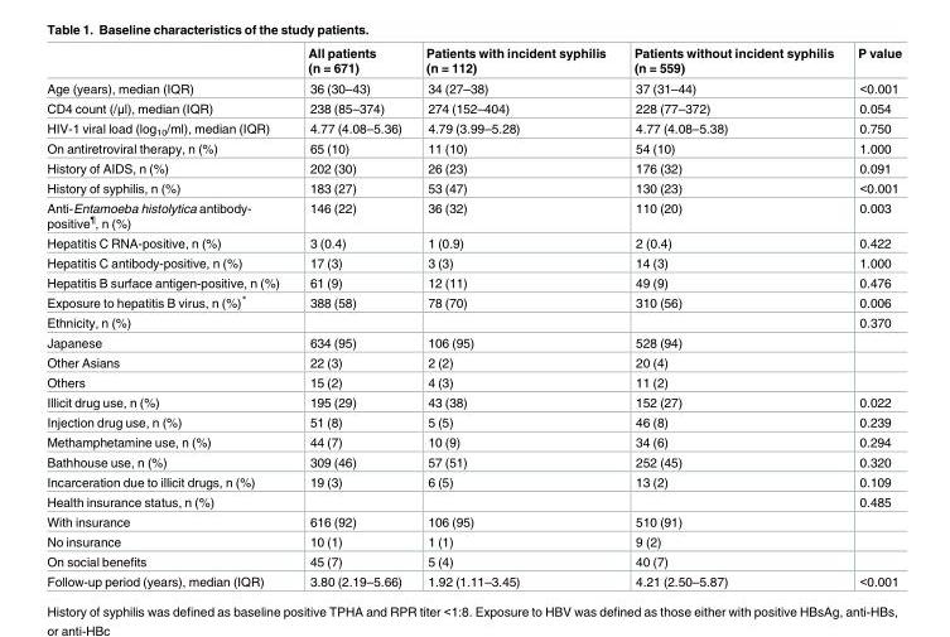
<table><thead><tr><td></td><td>All patients (n = 671)</td><td>Patients with incident syphilis (n = 112)</td><td>Patients without incident syphilis (n = 559)</td><td>P value</td></tr></thead><tbody><tr><td>Age (years), median (IQR)</td><td>36 (30–43)</td><td>34 (27–38)</td><td>37 (31–44)</td><td>&lt;0.001</td></tr><tr><td>CD4 count (/μl), median (IQR)</td><td>238 (85–374)</td><td>274 (152–404)</td><td>228 (77–372)</td><td>0.054</td></tr><tr><td>HIV-1 viral load (log<sub>10</sub>/ml), median (IQR)</td><td>4.77 (4.08–5.36)</td><td>4.79 (3.99–5.28)</td><td>4.77 (4.08–5.38)</td><td>0.750</td></tr><tr><td>On antiretroviral therapy, n (%)</td><td>65 (10)</td><td>11 (10)</td><td>54 (10)</td><td>1.000</td></tr><tr><td>History of AIDS, n (%)</td><td>202 (30)</td><td>26 (23)</td><td>176 (32)</td><td>0.091</td></tr><tr><td>History of syphilis, n (%)</td><td>183 (27)</td><td>53 (47)</td><td>130 (23)</td><td>&lt;0.001</td></tr><tr><td>Anti-Entamoeba histolytica antibody- positive<sup>¶</sup>, n (%)</td><td>146 (22)</td><td>36 (32)</td><td>110 (20)</td><td>0.003</td></tr><tr><td>Hepatitis C RNA-positive, n (%)</td><td>3 (0.4)</td><td>1 (0.9)</td><td>2 (0.4)</td><td>0.422</td></tr><tr><td>Hepatitis C antibody-positive, n (%)</td><td>17 (3)</td><td>3 (3)</td><td>14 (3)</td><td>1.000</td></tr><tr><td>Hepatitis B surface antigen-positive, n (%)</td><td>61 (9)</td><td>12 (11)</td><td>49 (9)</td><td>0.476</td></tr><tr><td>Exposure to hepatitis B virus, n (%)*</td><td>388 (58)</td><td>78 (70)</td><td>310 (56)</td><td>0.006</td></tr><tr><td>Ethnicity, n (%)</td><td></td><td></td><td></td><td>0.370</td></tr><tr><td>Japanese</td><td>634 (95)</td><td>106 (95)</td><td>528 (94)</td><td></td></tr><tr><td>Other Asians</td><td>22 (3)</td><td>2 (2)</td><td>20 (4)</td><td></td></tr><tr><td>Others</td><td>15 (2)</td><td>4 (3)</td><td>11 (2)</td><td></td></tr><tr><td>Illicit drug use, n (%)</td><td>195 (29)</td><td>43 (38)</td><td>152 (27)</td><td>0.022</td></tr><tr><td>Injection drug use, n (%)</td><td>51 (8)</td><td>5 (5)</td><td>46 (8)</td><td>0.239</td></tr><tr><td>Methamphetamine use, n (%)</td><td>44 (7)</td><td>10 (9)</td><td>34 (6)</td><td>0.294</td></tr><tr><td>Bathhouse use, n (%)</td><td>309 (46)</td><td>57 (51)</td><td>252 (45)</td><td>0.320</td></tr><tr><td>Incarceration due to illicit drugs, n (%)</td><td>19 (3)</td><td>6 (5)</td><td>13 (2)</td><td>0.109</td></tr><tr><td>Health insurance status, n (%)</td><td></td><td></td><td></td><td>0.485</td></tr><tr><td>With insurance</td><td>616 (92)</td><td>106 (95)</td><td>510 (91)</td><td></td></tr><tr><td>No insurance</td><td>10 (1)</td><td>1 (1)</td><td>9 (2)</td><td></td></tr><tr><td>On social benefits</td><td>45 (7)</td><td>5 (4)</td><td>40 (7)</td><td></td></tr><tr><td>Follow-up period (years), median (IQR)</td><td>3.80 (2.19–5.66)</td><td>1.92 (1.11–3.45)</td><td>4.21 (2.50–5.87)</td><td>&lt;0.001</td></tr></tbody></table>